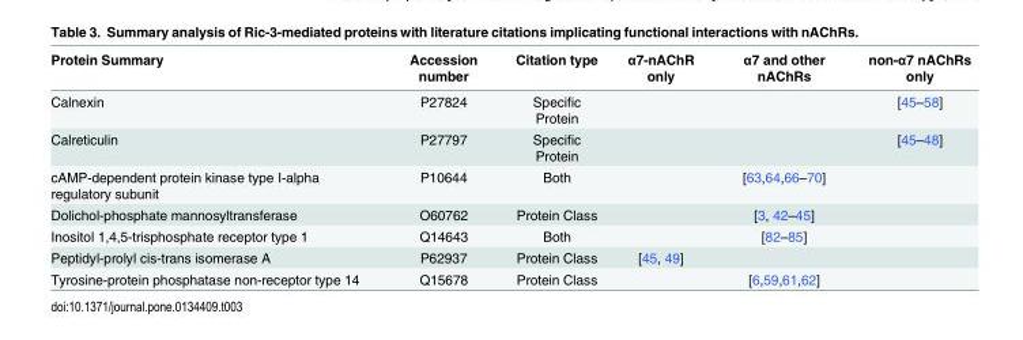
<table><thead><tr><td>Protein Summary</td><td>Accession number</td><td>Citation type</td><td>α7-nAChR only</td><td>α7 and other nAChRs</td><td>non-α7 nAChRs only</td></tr></thead><tbody><tr><td>Calnexin</td><td>P27824</td><td>Specific Protein</td><td></td><td></td><td>[45–58]</td></tr><tr><td>Calreticulin</td><td>P27797</td><td>Specific Protein</td><td></td><td></td><td>[45–48]</td></tr><tr><td>cAMP-dependent protein kinase type I-alpha regulatory subunit</td><td>P10644</td><td>Both</td><td></td><td>[63,64,66–70]</td><td></td></tr><tr><td>Dolichol-phosphate mannosyltransferase</td><td>O60762</td><td>Protein Class</td><td></td><td>[3, 42–45]</td><td></td></tr><tr><td>Inositol 1,4,5-trisphosphate receptor type 1</td><td>Q14643</td><td>Both</td><td></td><td>[82–85]</td><td></td></tr><tr><td>Peptidyl-prolyl cis-trans isomerase A</td><td>P62937</td><td>Protein Class</td><td>[45, 49]</td><td></td><td></td></tr><tr><td>Tyrosine-protein phosphatase non-receptor type 14</td><td>Q15678</td><td>Protein Class</td><td></td><td>[6,59,61,62]</td><td></td></tr></tbody></table>